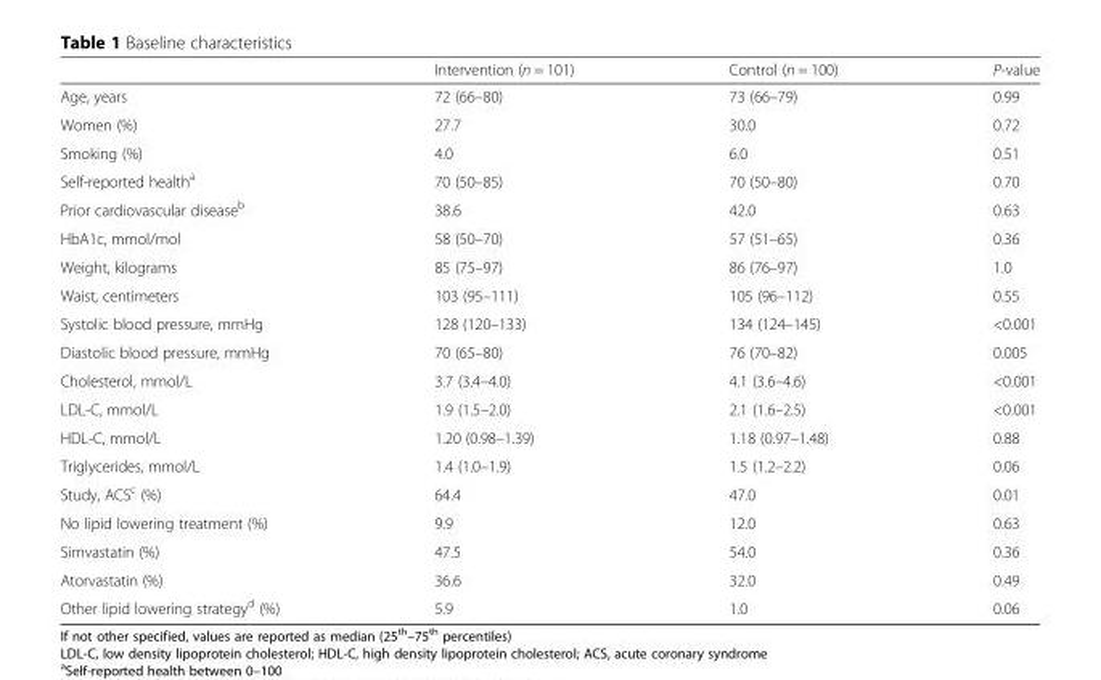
<table><thead><tr><td></td><td>Intervention (n = 101)</td><td>Control (n = 100)</td><td>P-value</td></tr></thead><tbody><tr><td>Age, years</td><td>72 (66–80)</td><td>73 (66–79)</td><td>0.99</td></tr><tr><td>Women (%)</td><td>27.7</td><td>30.0</td><td>0.72</td></tr><tr><td>Smoking (%)</td><td>4.0</td><td>6.0</td><td>0.51</td></tr><tr><td>Self-reported health<sup>a</sup></td><td>70 (50–85)</td><td>70 (50–80)</td><td>0.70</td></tr><tr><td>Prior cardiovascular disease<sup>b</sup></td><td>38.6</td><td>42.0</td><td>0.63</td></tr><tr><td>HbA1c, mmol/mol</td><td>58 (50–70)</td><td>57 (51–65)</td><td>0.36</td></tr><tr><td>Weight, kilograms</td><td>85 (75–97)</td><td>86 (76–97)</td><td>1.0</td></tr><tr><td>Waist, centimeters</td><td>103 (95–111)</td><td>105 (96–112)</td><td>0.55</td></tr><tr><td>Systolic blood pressure, mmHg</td><td>128 (120–133)</td><td>134 (124–145)</td><td>&lt;0.001</td></tr><tr><td>Diastolic blood pressure, mmHg</td><td>70 (65–80)</td><td>76 (70–82)</td><td>0.005</td></tr><tr><td>Cholesterol, mmol/L</td><td>3.7 (3.4–4.0)</td><td>4.1 (3.6–4.6)</td><td>&lt;0.001</td></tr><tr><td>LDL-C, mmol/L</td><td>1.9 (1.5–2.0)</td><td>2.1 (1.6–2.5)</td><td>&lt;0.001</td></tr><tr><td>HDL-C, mmol/L</td><td>1.20 (0.98–1.39)</td><td>1.18 (0.97–1.48)</td><td>0.88</td></tr><tr><td>Triglycerides, mmol/L</td><td>1.4 (1.0–1.9)</td><td>1.5 (1.2–2.2)</td><td>0.06</td></tr><tr><td>Study, ACS<sup>c</sup> (%)</td><td>64.4</td><td>47.0</td><td>0.01</td></tr><tr><td>No lipid lowering treatment (%)</td><td>9.9</td><td>12.0</td><td>0.63</td></tr><tr><td>Simvastatin (%)</td><td>47.5</td><td>54.0</td><td>0.36</td></tr><tr><td>Atorvastatin (%)</td><td>36.6</td><td>32.0</td><td>0.49</td></tr><tr><td>Other lipid lowering strategy<sup>d</sup> (%)</td><td>5.9</td><td>1.0</td><td>0.06</td></tr></tbody></table>